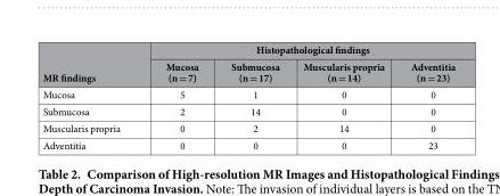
<table><thead><tr><td rowspan="2">MR findings</td><td colspan="4">Histopathological findings</td></tr><tr><td>Mucosa (n = 7)</td><td>Submucosa (n = 17)</td><td>Muscularis propria (n = 14)</td><td>Adventitia (n = 23)</td></tr></thead><tbody><tr><td>Mucosa</td><td>5</td><td>1</td><td>0</td><td>0</td></tr><tr><td>Submucosa</td><td>2</td><td>14</td><td>0</td><td>0</td></tr><tr><td>Muscularis propria</td><td>0</td><td>2</td><td>14</td><td>0</td></tr><tr><td>Adventitia</td><td>0</td><td>0</td><td>0</td><td>23</td></tr></tbody></table>